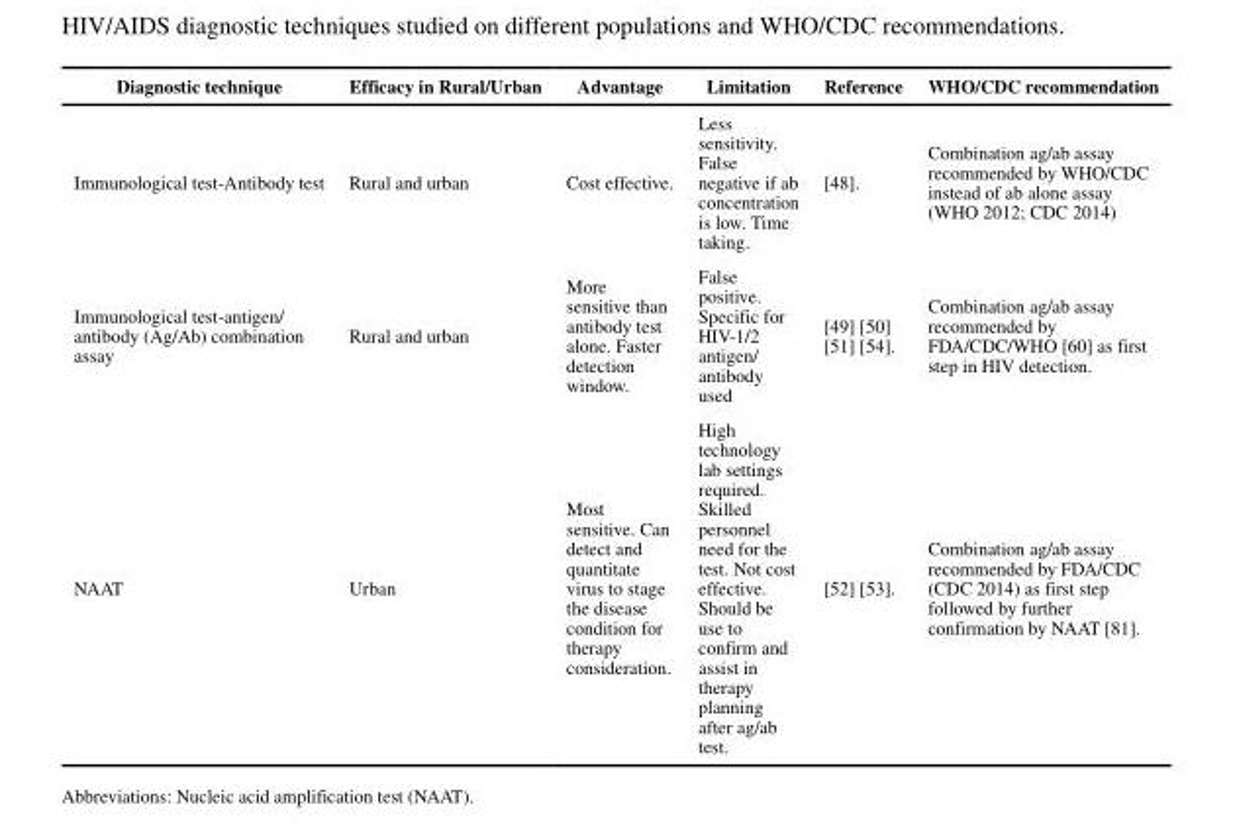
<table><thead><tr><td>Diagnostic technique</td><td>Efficacy in Rural/Urban</td><td>Advantage</td><td>Limitation</td><td>Reference</td><td>WHO/CDC recommendation</td></tr></thead><tbody><tr><td>Immunological test-Antibody test</td><td>Rural and urban</td><td>Cost effective.</td><td>Less sensitivity. False negative if ab concentration is low. Time taking.</td><td>[48].</td><td>Combination ag/ab assay recommended by WHO/CDC instead of ab alone assay (WHO 2012; CDC 2014)</td></tr><tr><td>Immunological test-antigen/ antibody (Ag/Ab) combination assay</td><td>Rural and urban</td><td>More sensitive than antibody test alone. Faster detection window.</td><td>False positive. Specific for HIV-1/2 antigen/ antibody used</td><td>[49] [50] [51] [54].</td><td>Combination ag/ab assay recommended by FDA/CDC/WHO [60] as first step in HIV detection.</td></tr><tr><td>NAAT</td><td>Urban</td><td>Most sensitive. Can detect and quantitate virus to stage the disease condition for therapy consideration.</td><td>High technology lab settings required. Skilled personnel need for the test. Not cost effective. Should be use to confirm and assist in therapy planning after ag/ab test.</td><td>[52] [53].</td><td>Combination ag/ab assay recommended by FDA/CDC (CDC 2014) as first step followed by further confirmation by NAAT [81].</td></tr></tbody></table>